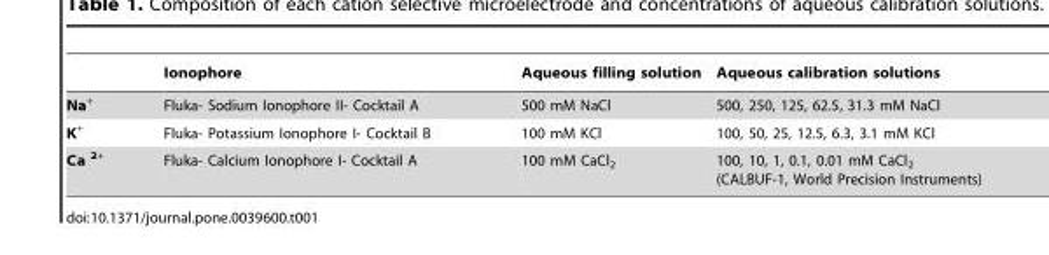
<table><thead><tr><td></td><td>Ionophore</td><td>Aqueous filling solution</td><td>Aqueous calibration solutions</td></tr></thead><tbody><tr><td>Na<sup>+</sup></td><td>Fluka- Sodium Ionophore II- Cocktail A</td><td>500 mM NaCl</td><td>500, 250, 125, 62.5, 31.3 mM NaCl</td></tr><tr><td>K<sup>+</sup></td><td>Fluka- Potassium Ionophore I- Cocktail B</td><td>100 mM KCl</td><td>100, 50, 25, 12.5, 6.3, 3.1 mM KCl</td></tr><tr><td>Ca <sup>2+</sup></td><td>Fluka- Calcium Ionophore I- Cocktail A</td><td>100 mM CaCl<sub>2</sub></td><td>100, 10, 1, 0.1, 0.01 mM CaCl<sub>2</sub> (CALBUF-1, World Precision Instruments)</td></tr></tbody></table>